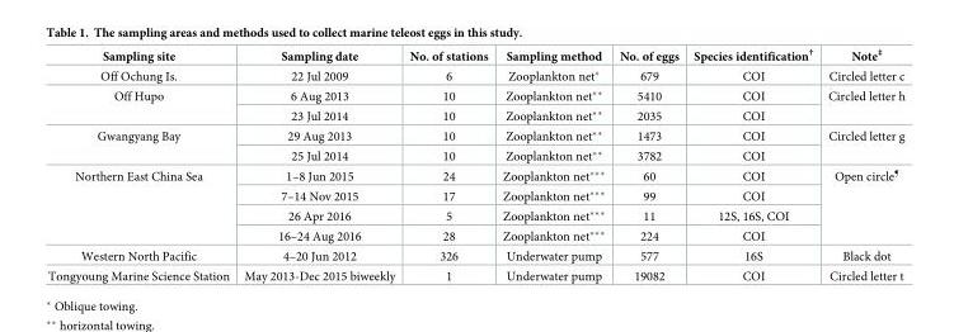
<table><thead><tr><td>Sampling site</td><td>Sampling date</td><td>No. of stations</td><td>Sampling method</td><td>No. of eggs</td><td>Species identification<sup>†</sup></td><td>Note<sup>‡</sup></td></tr></thead><tbody><tr><td>Off Ochung Is.</td><td>22 Jul 2009</td><td>6</td><td>Zooplankton net*</td><td>679</td><td>COI</td><td>Circled letter c</td></tr><tr><td rowspan="2">Off Hupo</td><td>6 Aug 2013</td><td>10</td><td>Zooplankton net**</td><td>5410</td><td>COI</td><td rowspan="2">Circled letter h</td></tr><tr><td>23 Jul 2014</td><td>10</td><td>Zooplankton net**</td><td>2035</td><td>COI</td></tr><tr><td rowspan="2">Gwangyang Bay</td><td>29 Aug 2013</td><td>10</td><td>Zooplankton net**</td><td>1473</td><td>COI</td><td rowspan="2">Circled letter g</td></tr><tr><td>25 Jul 2014</td><td>10</td><td>Zooplankton net**</td><td>3782</td><td>COI</td></tr><tr><td rowspan="4">Northern East China Sea</td><td>1–8 Jun 2015</td><td>24</td><td>Zooplankton net***</td><td>60</td><td>COI</td><td rowspan="4">Open circle<sup>¶</sup></td></tr><tr><td>7–14 Nov 2015</td><td>17</td><td>Zooplankton net***</td><td>99</td><td>COI</td></tr><tr><td>26 Apr 2016</td><td>5</td><td>Zooplankton net***</td><td>11</td><td>12S, 16S, COI</td></tr><tr><td>16–24 Aug 2016</td><td>28</td><td>Zooplankton net***</td><td>224</td><td>COI</td></tr><tr><td>Western North Pacific</td><td>4–20 Jun 2012</td><td>326</td><td>Underwater pump</td><td>577</td><td>16S</td><td>Black dot</td></tr><tr><td>Tongyoung Marine Science Station</td><td>May 2013-Dec 2015 biweekly</td><td>1</td><td>Underwater pump</td><td>19082</td><td>COI</td><td>Circled letter t</td></tr></tbody></table>